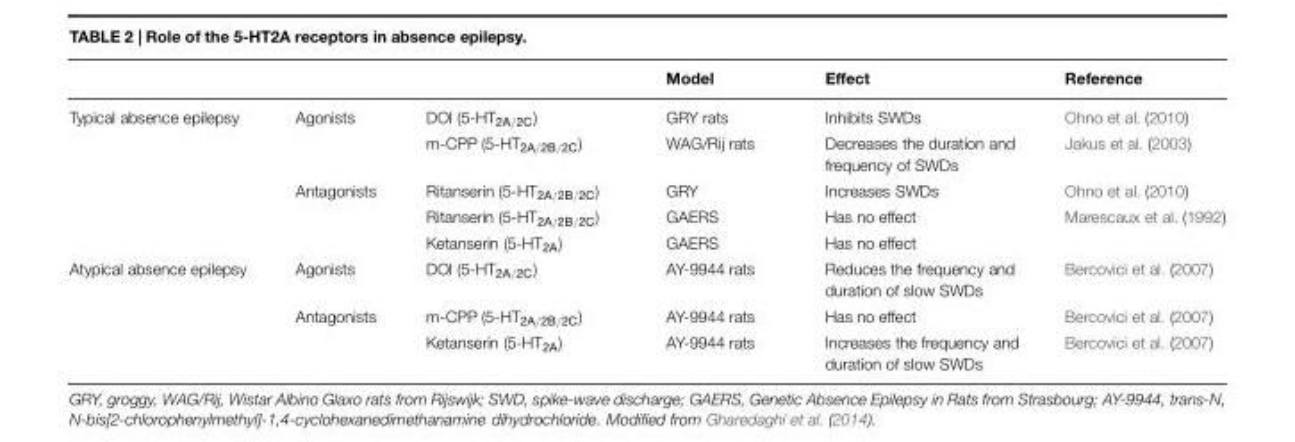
<table><thead><tr><td></td><td></td><td></td><td>Model</td><td>Effect</td><td>Reference</td></tr></thead><tbody><tr><td rowspan="5">Typical absence epilepsy</td><td>Agonists</td><td>DOI (5-HT<sub>2A/2C</sub>)</td><td>GRY rats</td><td>Inhibits SWDs</td><td>Ohno et al. (2010)</td></tr><tr><td></td><td>m-CPP (5-HT<sub>2A/2B/2C</sub>)</td><td>WAG/Rij rats</td><td>Decreases the duration and frequency of SWDs</td><td>Jakus et al. (2003)</td></tr><tr><td>Antagonists</td><td>Ritanserin (5-HT<sub>2A/2B/2C</sub>)</td><td>GRY</td><td>Increases SWDs</td><td>Ohno et al. (2010)</td></tr><tr><td></td><td>Ritanserin (5-HT<sub>2A/2B/2C</sub>)</td><td>GAERS</td><td>Has no effect</td><td>Marescaux et al. (1992)</td></tr><tr><td></td><td>Ketanserin (5-HT<sub>2A</sub>)</td><td>GAERS</td><td>Has no effect</td><td></td></tr><tr><td rowspan="3">Atypical absence epilepsy</td><td>Agonists</td><td>DOI (5-HT<sub>2A/2C</sub>)</td><td>AY-9944 rats</td><td>Reduces the frequency and duration of slow SWDs</td><td>Bercovici et al. (2007)</td></tr><tr><td>Antagonists</td><td>m-CPP (5-HT<sub>2A/2B/2C</sub>)</td><td>AY-9944 rats</td><td>Has no effect</td><td>Bercovici et al. (2007)</td></tr><tr><td></td><td>Ketanserin (5-HT<sub>2A</sub>)</td><td>AY-9944 rats</td><td>Increases the frequency and duration of slow SWDs</td><td>Bercovici et al. (2007)</td></tr></tbody></table>